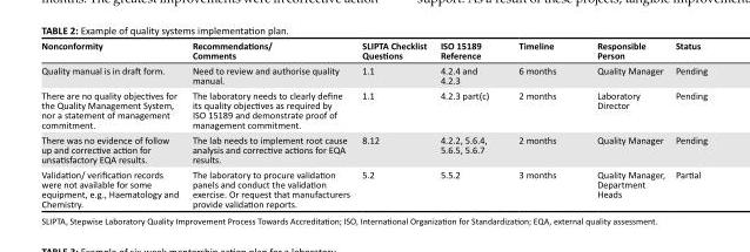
<table><thead><tr><td>Nonconformity</td><td>Recommendations/ Comments</td><td>SLIPTA Checklist Questions</td><td>ISO 15189 Reference</td><td>Timeline</td><td>Responsible Person</td><td>Status</td></tr></thead><tbody><tr><td>Quality manual is in draft form.</td><td>Need to review and authorise quality manual.</td><td>1.1</td><td>4.2.4 and 4.2.3</td><td>6 months</td><td>Quality Manager</td><td>Pending</td></tr><tr><td>There are no quality objectives for the Quality Management System, nor a statement of management commitment.</td><td>The laboratory needs to clearly define its quality objectives as required by ISO 15189 and demonstrate proof of management commitment.</td><td>1.1</td><td>4.2.3 part(c)</td><td>2 months</td><td>Laboratory Director</td><td>Pending</td></tr><tr><td>There was no evidence of follow up and corrective action for unsatisfactory EQA results.</td><td>The lab needs to implement root cause analysis and corrective actions for EQA results.</td><td>8.12</td><td>4.2.2, 5.6.4, 5.6.5, 5.6.7</td><td>2 months</td><td>Quality Manager</td><td>Pending</td></tr><tr><td>Validation/ verification records were not available for some equipment, e.g., Haematology and Chemistry.</td><td>The laboratory to procure validation panels and conduct the validation exercise. Or request that manufacturers provide validation reports.</td><td>5.2</td><td>5.5.2</td><td>3 months</td><td>Quality Manager, Department Heads</td><td>Partial</td></tr></tbody></table>